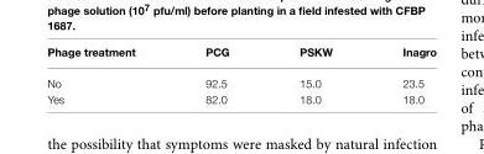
<table><thead><tr><td>Phage treatment</td><td>PCG</td><td>PSKW</td><td>Inagro</td></tr></thead><tbody><tr><td>No</td><td>92.5</td><td>15.0</td><td>23.5</td></tr><tr><td>Yes</td><td>82.0</td><td>18.0</td><td>18.0</td></tr></tbody></table>